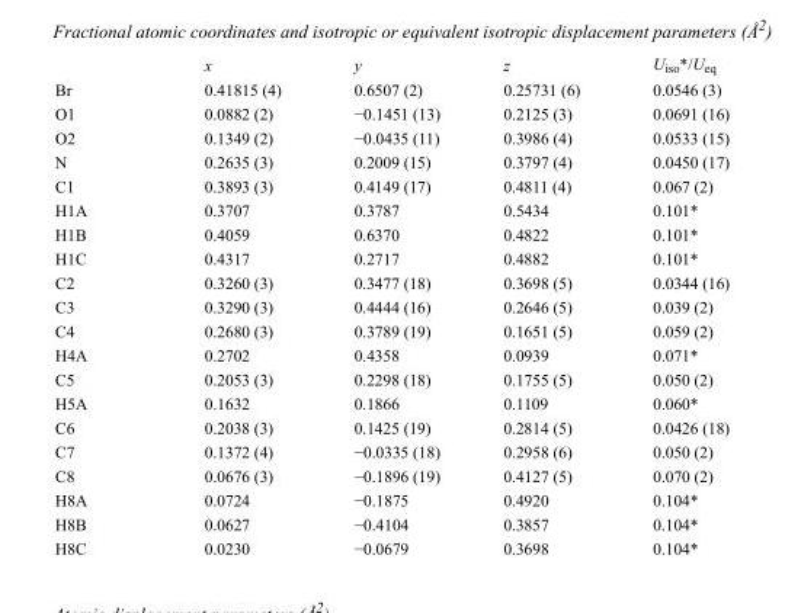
<table><thead><tr><td></td><td>x</td><td>y</td><td>z</td><td>U<sub>iso</sub>*/U<sub>eq</sub></td></tr></thead><tbody><tr><td>Br</td><td>0.41815 (4)</td><td>0.6507 (2)</td><td>0.25731 (6)</td><td>0.0546 (3)</td></tr><tr><td>O1</td><td>0.0882 (2)</td><td>−0.1451 (13)</td><td>0.2125 (3)</td><td>0.0691 (16)</td></tr><tr><td>O2</td><td>0.1349 (2)</td><td>−0.0435 (11)</td><td>0.3986 (4)</td><td>0.0533 (15)</td></tr><tr><td>N</td><td>0.2635 (3)</td><td>0.2009 (15)</td><td>0.3797 (4)</td><td>0.0450 (17)</td></tr><tr><td>C1</td><td>0.3893 (3)</td><td>0.4149 (17)</td><td>0.4811 (4)</td><td>0.067 (2)</td></tr><tr><td>H1A</td><td>0.3707</td><td>0.3787</td><td>0.5434</td><td>0.101*</td></tr><tr><td>H1B</td><td>0.4059</td><td>0.6370</td><td>0.4822</td><td>0.101*</td></tr><tr><td>H1C</td><td>0.4317</td><td>0.2717</td><td>0.4882</td><td>0.101*</td></tr><tr><td>C2</td><td>0.3260 (3)</td><td>0.3477 (18)</td><td>0.3698 (5)</td><td>0.0344 (16)</td></tr><tr><td>C3</td><td>0.3290 (3)</td><td>0.4444 (16)</td><td>0.2646 (5)</td><td>0.039 (2)</td></tr><tr><td>C4</td><td>0.2680 (3)</td><td>0.3789 (19)</td><td>0.1651 (5)</td><td>0.059 (2)</td></tr><tr><td>H4A</td><td>0.2702</td><td>0.4358</td><td>0.0939</td><td>0.071*</td></tr><tr><td>C5</td><td>0.2053 (3)</td><td>0.2298 (18)</td><td>0.1755 (5)</td><td>0.050 (2)</td></tr><tr><td>H5A</td><td>0.1632</td><td>0.1866</td><td>0.1109</td><td>0.060*</td></tr><tr><td>C6</td><td>0.2038 (3)</td><td>0.1425 (19)</td><td>0.2814 (5)</td><td>0.0426 (18)</td></tr><tr><td>C7</td><td>0.1372 (4)</td><td>−0.0335 (18)</td><td>0.2958 (6)</td><td>0.050 (2)</td></tr><tr><td>C8</td><td>0.0676 (3)</td><td>−0.1896 (19)</td><td>0.4127 (5)</td><td>0.070 (2)</td></tr><tr><td>H8A</td><td>0.0724</td><td>−0.1875</td><td>0.4920</td><td>0.104*</td></tr><tr><td>H8B</td><td>0.0627</td><td>−0.4104</td><td>0.3857</td><td>0.104*</td></tr><tr><td>H8C</td><td>0.0230</td><td>−0.0679</td><td>0.3698</td><td>0.104*</td></tr></tbody></table>